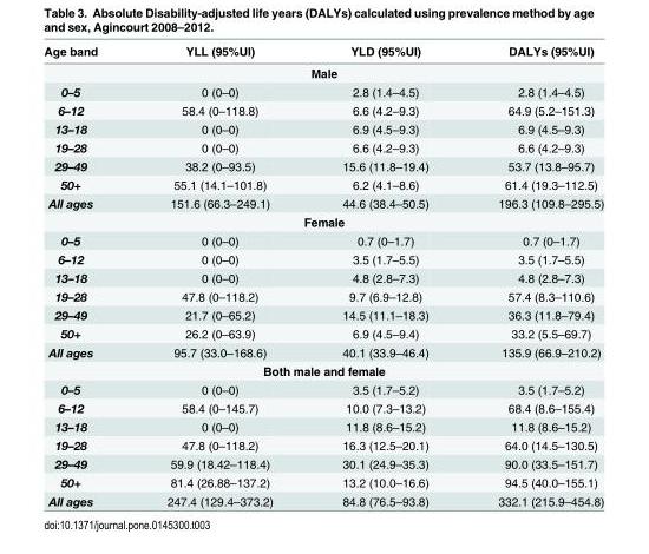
<table><thead><tr><td>Age band</td><td>YLL (95%UI)</td><td>YLD (95%UI)</td><td>DALYs (95%UI)</td></tr></thead><tbody><tr><td colspan="4">Male</td></tr><tr><td>0–5</td><td>0 (0–0)</td><td>2.8 (1.4–4.5)</td><td>2.8 (1.4–4.5)</td></tr><tr><td>6–12</td><td>58.4 (0–118.8)</td><td>6.6 (4.2–9.3)</td><td>64.9 (5.2–151.3)</td></tr><tr><td>13–18</td><td>0 (0–0)</td><td>6.9 (4.5–9.3)</td><td>6.9 (4.5–9.3)</td></tr><tr><td>19–28</td><td>0 (0–0)</td><td>6.6 (4.2–9.3)</td><td>6.6 (4.2–9.3)</td></tr><tr><td>29–49</td><td>38.2 (0–93.5)</td><td>15.6 (11.8–19.4)</td><td>53.7 (13.8–95.7)</td></tr><tr><td>50+</td><td>55.1 (14.1–101.8)</td><td>6.2 (4.1–8.6)</td><td>61.4 (19.3–112.5)</td></tr><tr><td>All ages</td><td>151.6 (66.3–249.1)</td><td>44.6 (38.4–50.5)</td><td>196.3 (109.8–295.5)</td></tr><tr><td colspan="4">Female</td></tr><tr><td>0–5</td><td>0 (0–0)</td><td>0.7 (0–1.7)</td><td>0.7 (0–1.7)</td></tr><tr><td>6–12</td><td>0 (0–0)</td><td>3.5 (1.7–5.5)</td><td>3.5 (1.7–5.5)</td></tr><tr><td>13–18</td><td>0 (0–0)</td><td>4.8 (2.8–7.3)</td><td>4.8 (2.8–7.3)</td></tr><tr><td>19–28</td><td>47.8 (0–118.2)</td><td>9.7 (6.9–12.8)</td><td>57.4 (8.3–110.6)</td></tr><tr><td>29–49</td><td>21.7 (0–65.2)</td><td>14.5 (11.1–18.3)</td><td>36.3 (11.8–79.4)</td></tr><tr><td>50+</td><td>26.2 (0–63.9)</td><td>6.9 (4.5–9.4)</td><td>33.2 (5.5–69.7)</td></tr><tr><td>All ages</td><td>95.7 (33.0–168.6)</td><td>40.1 (33.9–46.4)</td><td>135.9 (66.9–210.2)</td></tr><tr><td colspan="4">Both male and female</td></tr><tr><td>0–5</td><td>0 (0–0)</td><td>3.5 (1.7–5.2)</td><td>3.5 (1.7–5.2)</td></tr><tr><td>6–12</td><td>58.4 (0–145.7)</td><td>10.0 (7.3–13.2)</td><td>68.4 (8.6–155.4)</td></tr><tr><td>13–18</td><td>0 (0–0)</td><td>11.8 (8.6–15.2)</td><td>11.8 (8.6–15.2)</td></tr><tr><td>19–28</td><td>47.8 (0–118.2)</td><td>16.3 (12.5–20.1)</td><td>64.0 (14.5–130.5)</td></tr><tr><td>29–49</td><td>59.9 (18.42–118.4)</td><td>30.1 (24.9–35.3)</td><td>90.0 (33.5–151.7)</td></tr><tr><td>50+</td><td>81.4 (26.88–137.2)</td><td>13.2 (10.0–16.6)</td><td>94.5 (40.0–155.1)</td></tr><tr><td>All ages</td><td>247.4 (129.4–373.2)</td><td>84.8 (76.5–93.8)</td><td>332.1 (215.9–454.8)</td></tr></tbody></table>